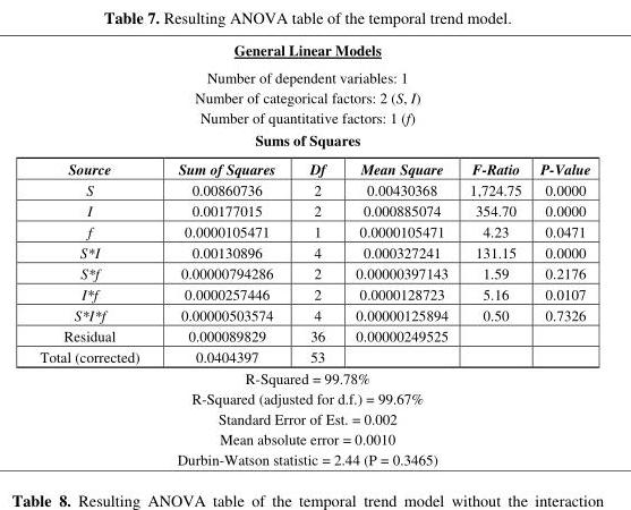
<table><tbody><tr><td colspan="6">General Linear Models</td></tr><tr><td colspan="6">Number of dependent variables: 1</td></tr><tr><td colspan="6">Number of categorical factors: 2 (S, I)</td></tr><tr><td colspan="6">Number of quantitative factors: 1 (f)</td></tr><tr><td colspan="6">Sums of Squares</td></tr><tr><td>Source</td><td>Sum of Squares</td><td>Df</td><td>Mean Square</td><td>F-Ratio</td><td>P-Value</td></tr><tr><td>S</td><td>0.00860736</td><td>2</td><td>0.00430368</td><td>1,724.75</td><td>0.0000</td></tr><tr><td>I</td><td>0.00177015</td><td>2</td><td>0.000885074</td><td>354.70</td><td>0.0000</td></tr><tr><td>f</td><td>0.0000105471</td><td>1</td><td>0.0000105471</td><td>4.23</td><td>0.0471</td></tr><tr><td>S*I</td><td>0.00130896</td><td>4</td><td>0.000327241</td><td>131.15</td><td>0.0000</td></tr><tr><td>S*f</td><td>0.00000794286</td><td>2</td><td>0.00000397143</td><td>1.59</td><td>0.2176</td></tr><tr><td>I*f</td><td>0.0000257446</td><td>2</td><td>0.0000128723</td><td>5.16</td><td>0.0107</td></tr><tr><td>S*I*f</td><td>0.00000503574</td><td>4</td><td>0.00000125894</td><td>0.50</td><td>0.7326</td></tr><tr><td>Residual</td><td>0.000089829</td><td>36</td><td>0.00000249525</td><td></td><td></td></tr><tr><td>Total (corrected)</td><td>0.0404397</td><td>53</td><td></td><td></td><td></td></tr><tr><td colspan="6">R-Squared = 99.78%</td></tr><tr><td colspan="6">R-Squared (adjusted for d.f.) = 99.67%</td></tr><tr><td colspan="6">Standard Error of Est. = 0.002</td></tr><tr><td colspan="6">Mean absolute error = 0.0010</td></tr><tr><td colspan="6">Durbin-Watson statistic = 2.44 (P = 0.3465)</td></tr></tbody></table>